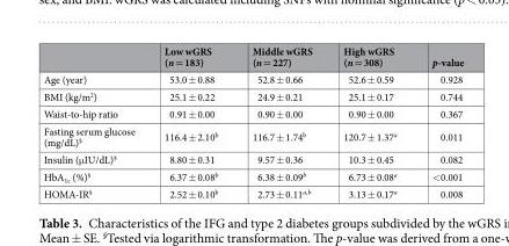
<table><thead><tr><td></td><td>Low wGRS (n = 183)</td><td>Middle wGRS (n = 227)</td><td>High wGRS (n = 308)</td><td>p-value</td></tr></thead><tbody><tr><td>Age (year)</td><td>53.0 ± 0.88</td><td>52.8 ± 0.66</td><td>52.6 ± 0.59</td><td>0.928</td></tr><tr><td>BMI (kg/m<sup>2</sup>)</td><td>25.1 ± 0.22</td><td>24.9 ± 0.21</td><td>25.1 ± 0.17</td><td>0.744</td></tr><tr><td>Waist-to-hip ratio</td><td>0.91 ± 0.00</td><td>0.90 ± 0.00</td><td>0.90 ± 0.00</td><td>0.367</td></tr><tr><td>Fasting serum glucose (mg/dL)<sup>§</sup></td><td>116.4 ± 2.10<sup>b</sup></td><td>116.7 ± 1.74<sup>b</sup></td><td>120.7 ± 1.37<sup>a</sup></td><td>0.011</td></tr><tr><td>Insulin (μIU/dL)<sup>§</sup></td><td>8.80 ± 0.31</td><td>9.57 ± 0.36</td><td>10.3 ± 0.45</td><td>0.082</td></tr><tr><td>HbA<sub>1c</sub> (%)<sup>§</sup></td><td>6.37 ± 0.08<sup>b</sup></td><td>6.38 ± 0.09<sup>b</sup></td><td>6.73 ± 0.08<sup>a</sup></td><td>&lt;0.001</td></tr><tr><td>HOMA-IR<sup>§</sup></td><td>2.52 ± 0.10<sup>b</sup></td><td>2.73 ± 0.11<sup>a,b</sup></td><td>3.13 ± 0.17<sup>a</sup></td><td>0.008</td></tr></tbody></table>